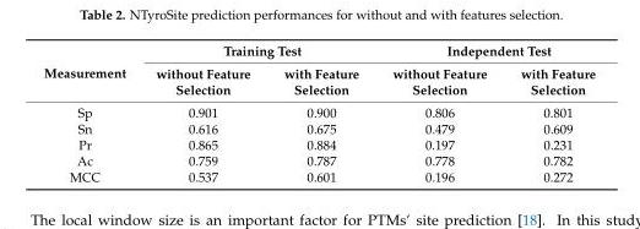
<table><thead><tr><td rowspan="2">Measurement</td><td colspan="2">Training Test</td><td colspan="2">Independent Test</td></tr><tr><td>without Feature Selection</td><td>with Feature Selection</td><td>without Feature Selection</td><td>with Feature Selection</td></tr></thead><tbody><tr><td>Sp</td><td>0.901</td><td>0.900</td><td>0.806</td><td>0.801</td></tr><tr><td>Sn</td><td>0.616</td><td>0.675</td><td>0.479</td><td>0.609</td></tr><tr><td>Pr</td><td>0.865</td><td>0.884</td><td>0.197</td><td>0.231</td></tr><tr><td>Ac</td><td>0.759</td><td>0.787</td><td>0.778</td><td>0.782</td></tr><tr><td>MCC</td><td>0.537</td><td>0.601</td><td>0.196</td><td>0.272</td></tr></tbody></table>